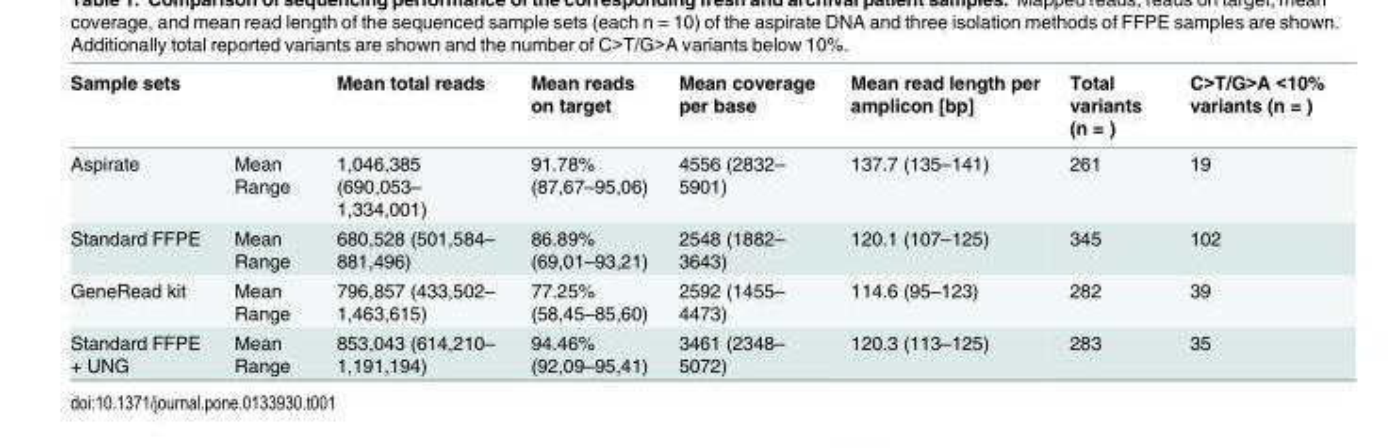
<table><thead><tr><td>Sample sets</td><td></td><td>Mean total reads</td><td>Mean reads on target</td><td>Mean coverage per base</td><td>Mean read length per amplicon [bp]</td><td>Total variants (n = )</td><td>C&gt;T/G&gt;A &lt;10% variants (n = )</td></tr></thead><tbody><tr><td>Aspirate</td><td>Mean Range</td><td>1,046,385 (690,053– 1,334,001)</td><td>91.78% (87,67–95,06)</td><td>4556 (2832– 5901)</td><td>137.7 (135–141)</td><td>261</td><td>19</td></tr><tr><td>Standard FFPE</td><td>Mean Range</td><td>680,528 (501,584– 881,496)</td><td>86.89% (69,01–93,21)</td><td>2548 (1882– 3643)</td><td>120.1 (107–125)</td><td>345</td><td>102</td></tr><tr><td>GeneRead kit</td><td>Mean Range</td><td>796,857 (433,502– 1,463,615)</td><td>77.25% (58,45–85,60)</td><td>2592 (1455– 4473)</td><td>114.6 (95–123)</td><td>282</td><td>39</td></tr><tr><td>Standard FFPE + UNG</td><td>Mean Range</td><td>853,043 (614,210– 1,191,194)</td><td>94.46% (92,09–95,41)</td><td>3461 (2348– 5072)</td><td>120.3 (113–125)</td><td>283</td><td>35</td></tr></tbody></table>